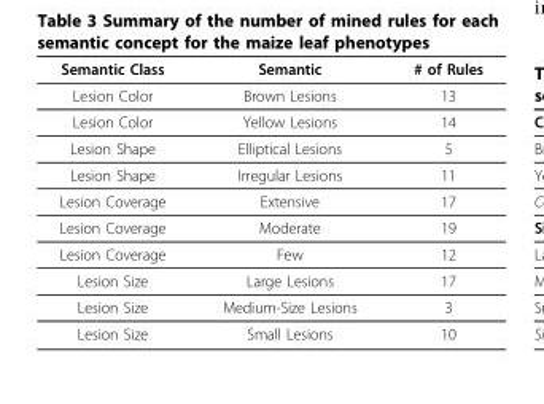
<table><thead><tr><td>Semantic Class</td><td>Semantic</td><td># of Rules</td></tr></thead><tbody><tr><td>Lesion Color</td><td>Brown Lesions</td><td>13</td></tr><tr><td>Lesion Color</td><td>Yellow Lesions</td><td>14</td></tr><tr><td>Lesion Shape</td><td>Elliptical Lesions</td><td>5</td></tr><tr><td>Lesion Shape</td><td>Irregular Lesions</td><td>11</td></tr><tr><td>Lesion Coverage</td><td>Extensive</td><td>17</td></tr><tr><td>Lesion Coverage</td><td>Moderate</td><td>19</td></tr><tr><td>Lesion Coverage</td><td>Few</td><td>12</td></tr><tr><td>Lesion Size</td><td>Large Lesions</td><td>17</td></tr><tr><td>Lesion Size</td><td>Medium-Size Lesions</td><td>3</td></tr><tr><td>Lesion Size</td><td>Small Lesions</td><td>10</td></tr></tbody></table>